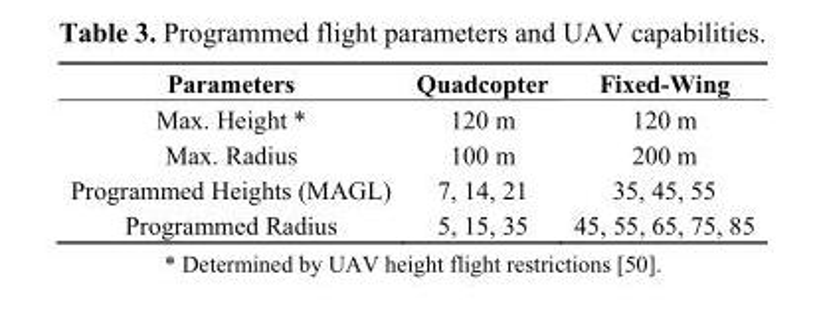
<table><thead><tr><td>Parameters</td><td>Quadcopter</td><td>Fixed-Wing</td></tr></thead><tbody><tr><td>Max. Height *</td><td>120 m</td><td>120 m</td></tr><tr><td>Max. Radius</td><td>100 m</td><td>200 m</td></tr><tr><td>Programmed Heights (MAGL)</td><td>7, 14, 21</td><td>35, 45, 55</td></tr><tr><td>Programmed Radius</td><td>5, 15, 35</td><td>45, 55, 65, 75, 85</td></tr></tbody></table>